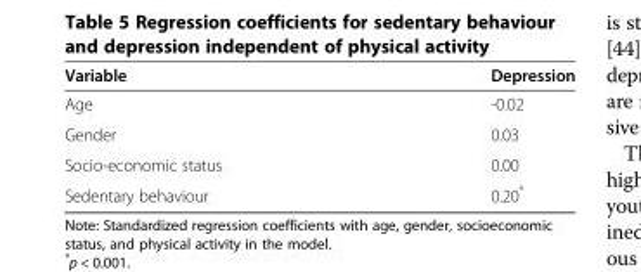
<table><thead><tr><td>Variable</td><td>Depression</td></tr></thead><tbody><tr><td>Age</td><td>-0.02</td></tr><tr><td>Gender</td><td>0.03</td></tr><tr><td>Socio-economic status</td><td>0.00</td></tr><tr><td>Sedentary behaviour</td><td>0.20*</td></tr></tbody></table>